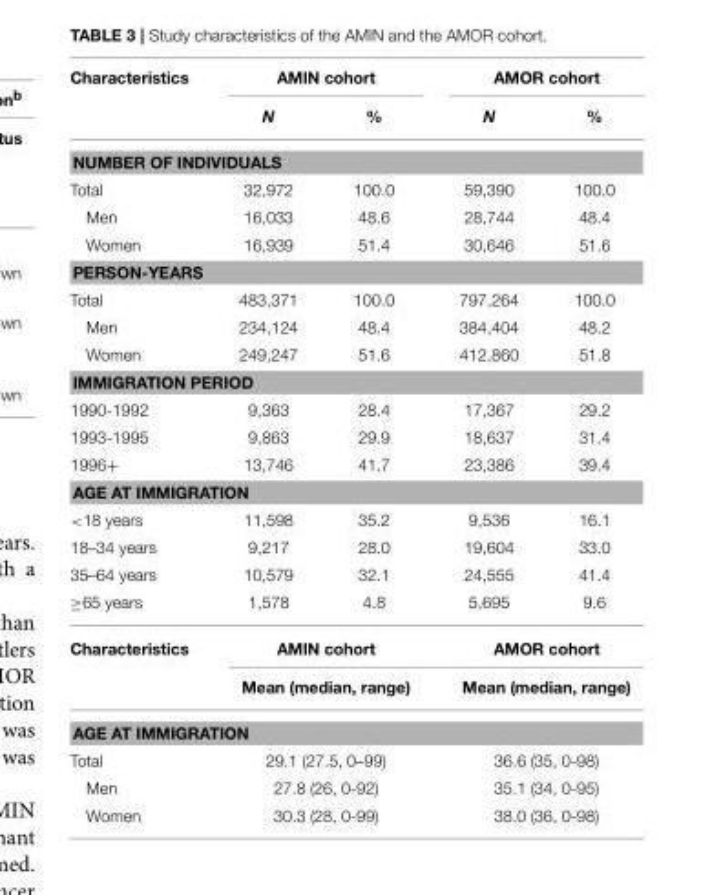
<table><thead><tr><td rowspan="2">Characteristics</td><td colspan="2">AMIN cohort</td><td colspan="2">AMOR cohort</td></tr><tr><td>N</td><td>%</td><td>N</td><td>%</td></tr></thead><tbody><tr><td colspan="5">NUMBER OF INDIVIDUALS</td></tr><tr><td>Total</td><td>32,972</td><td>100.0</td><td>59,390</td><td>100.0</td></tr><tr><td>Men</td><td>16,033</td><td>48.6</td><td>28,744</td><td>48.4</td></tr><tr><td>Women</td><td>16,939</td><td>51.4</td><td>30,646</td><td>51.6</td></tr><tr><td colspan="5">PERSON-YEARS</td></tr><tr><td>Total</td><td>483,371</td><td>100.0</td><td>797,264</td><td>100.0</td></tr><tr><td>Men</td><td>234,124</td><td>48.4</td><td>384,404</td><td>48.2</td></tr><tr><td>Women</td><td>249,247</td><td>51.6</td><td>412,860</td><td>51.8</td></tr><tr><td colspan="5">IMMIGRATION PERIOD</td></tr><tr><td>1990-1992</td><td>9,363</td><td>28.4</td><td>17,367</td><td>29.2</td></tr><tr><td>1993-1995</td><td>9,863</td><td>29.9</td><td>18,637</td><td>31.4</td></tr><tr><td>1996+</td><td>13,746</td><td>41.7</td><td>23,386</td><td>39.4</td></tr><tr><td colspan="5">AGE AT IMMIGRATION</td></tr><tr><td>&lt;18 years</td><td>11,598</td><td>35.2</td><td>9,536</td><td>16.1</td></tr><tr><td>18–34 years</td><td>9,217</td><td>28.0</td><td>19,604</td><td>33.0</td></tr><tr><td>35–64 years</td><td>10,579</td><td>32.1</td><td>24,555</td><td>41.4</td></tr><tr><td>≥65 years</td><td>1,578</td><td>4.8</td><td>5,695</td><td>9.6</td></tr><tr><td rowspan="2">Characteristics</td><td colspan="2">AMIN cohort</td><td colspan="2">AMOR cohort</td></tr><tr><td colspan="2">Mean (median, range)</td><td colspan="2">Mean (median, range)</td></tr><tr><td colspan="5">AGE AT IMMIGRATION</td></tr><tr><td>Total</td><td colspan="2">29.1 (27.5, 0–99)</td><td colspan="2">36.6 (35, 0-98)</td></tr><tr><td>Men</td><td colspan="2">27.8 (26, 0-92)</td><td colspan="2">35.1 (34, 0-95)</td></tr><tr><td>Women</td><td colspan="2">30.3 (28, 0-99)</td><td colspan="2">38.0 (36, 0-98)</td></tr></tbody></table>